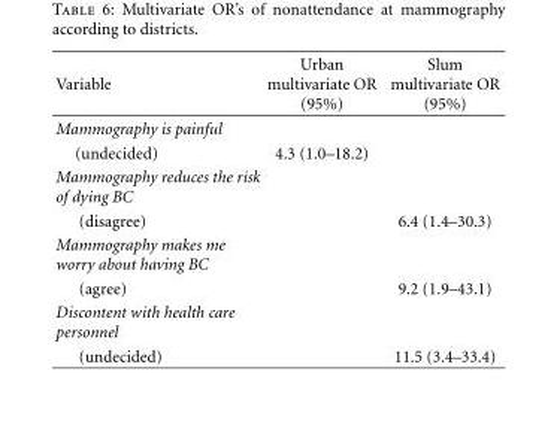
<table><thead><tr><td>Variable</td><td>Urban multivariate OR (95%)</td><td>Slum multivariate OR (95%)</td></tr></thead><tbody><tr><td colspan="3">Mammography is painful</td></tr><tr><td>(undecided)</td><td>4.3 (1.0–18.2)</td><td></td></tr><tr><td colspan="3">Mammography reduces the risk of dying BC</td></tr><tr><td>(disagree)</td><td></td><td>6.4 (1.4–30.3)</td></tr><tr><td colspan="3">Mammography makes me worry about having BC</td></tr><tr><td>(agree)</td><td></td><td>9.2 (1.9–43.1)</td></tr><tr><td colspan="3">Discontent with health care personnel</td></tr><tr><td>(undecided)</td><td></td><td>11.5 (3.4–33.4)</td></tr></tbody></table>